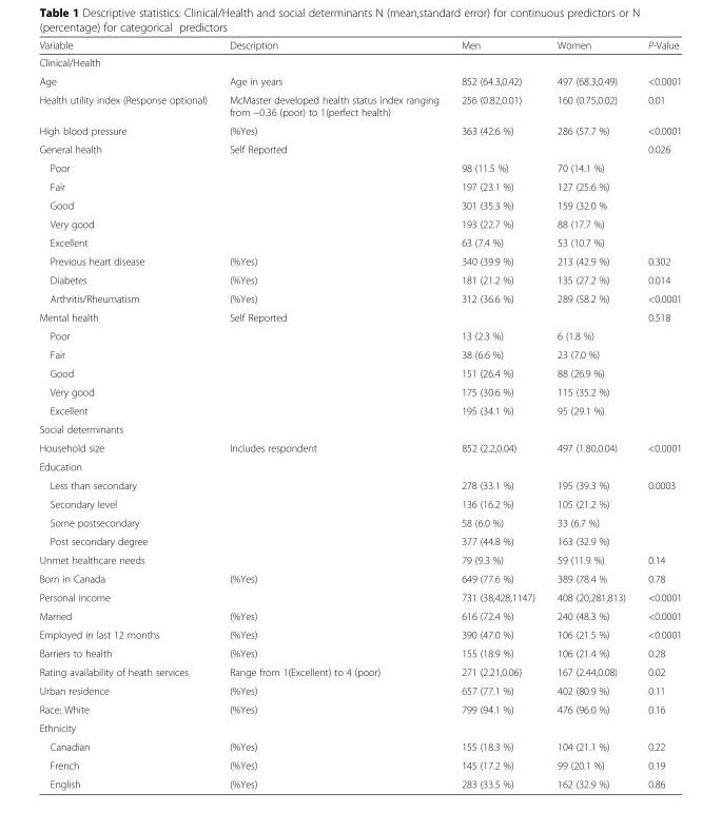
<table><thead><tr><td>Variable</td><td>Description</td><td>Men</td><td>Women</td><td>P-Value</td></tr></thead><tbody><tr><td colspan="5">Clinical/Health</td></tr><tr><td>Age</td><td>Age in years</td><td>852 (64.3,0.42)</td><td>497 (68.3,0.49)</td><td>&lt;0.0001</td></tr><tr><td>Health utility index (Response optional)</td><td>McMaster developed health status index ranging from −0.36 (poor) to 1(perfect health)</td><td>256 (0.82,0.01)</td><td>160 (0.75,0.02)</td><td>0.01</td></tr><tr><td>High blood pressure</td><td>(%Yes)</td><td>363 (42.6 %)</td><td>286 (57.7 %)</td><td>&lt;0.0001</td></tr><tr><td>General health</td><td>Self Reported</td><td></td><td></td><td>0.026</td></tr><tr><td>Poor</td><td></td><td>98 (11.5 %)</td><td>70 (14.1 %)</td><td></td></tr><tr><td>Fair</td><td></td><td>197 (23.1 %)</td><td>127 (25.6 %)</td><td></td></tr><tr><td>Good</td><td></td><td>301 (35.3 %)</td><td>159 (32.0 %</td><td></td></tr><tr><td>Very good</td><td></td><td>193 (22.7 %)</td><td>88 (17.7 %)</td><td></td></tr><tr><td>Excellent</td><td></td><td>63 (7.4 %)</td><td>53 (10.7 %)</td><td></td></tr><tr><td>Previous heart disease</td><td>(%Yes)</td><td>340 (39.9 %)</td><td>213 (42.9 %)</td><td>0.302</td></tr><tr><td>Diabetes</td><td>(%Yes)</td><td>181 (21.2 %)</td><td>135 (27.2 %)</td><td>0.014</td></tr><tr><td>Arthritis/Rheumatism</td><td>(%Yes)</td><td>312 (36.6 %)</td><td>289 (58.2 %)</td><td>&lt;0.0001</td></tr><tr><td>Mental health</td><td>Self Reported</td><td></td><td></td><td>0.518</td></tr><tr><td>Poor</td><td></td><td>13 (2.3 %)</td><td>6 (1.8 %)</td><td></td></tr><tr><td>Fair</td><td></td><td>38 (6.6 %)</td><td>23 (7.0 %)</td><td></td></tr><tr><td>Good</td><td></td><td>151 (26.4 %)</td><td>88 (26.9 %)</td><td></td></tr><tr><td>Very good</td><td></td><td>175 (30.6 %)</td><td>115 (35.2 %)</td><td></td></tr><tr><td>Excellent</td><td></td><td>195 (34.1 %)</td><td>95 (29.1 %)</td><td></td></tr><tr><td colspan="5">Social determinants</td></tr><tr><td>Household size</td><td>Includes respondent</td><td>852 (2.2,0.04)</td><td>497 (1.80,0.04)</td><td>&lt;0.0001</td></tr><tr><td colspan="5">Education</td></tr><tr><td>Less than secondary</td><td></td><td>278 (33.1 %)</td><td>195 (39.3 %)</td><td>0.0003</td></tr><tr><td>Secondary level</td><td></td><td>136 (16.2 %)</td><td>105 (21.2 %)</td><td></td></tr><tr><td>Some postsecondary</td><td></td><td>58 (6.0 %)</td><td>33 (6.7 %)</td><td></td></tr><tr><td>Post secondary degree</td><td></td><td>377 (44.8 %)</td><td>163 (32.9 %)</td><td></td></tr><tr><td>Unmet healthcare needs</td><td></td><td>79 (9.3 %)</td><td>59 (11.9 %)</td><td>0.14</td></tr><tr><td>Born in Canada</td><td>(%Yes)</td><td>649 (77.6 %)</td><td>389 (78.4 %</td><td>0.78</td></tr><tr><td>Personal income</td><td></td><td>731 (38,428,1147)</td><td>408 (20,281,813)</td><td>&lt;0.0001</td></tr><tr><td>Married</td><td>(%Yes)</td><td>616 (72.4 %)</td><td>240 (48.3 %)</td><td>&lt;0.0001</td></tr><tr><td>Employed in last 12 months</td><td>(%Yes)</td><td>390 (47.0 %)</td><td>106 (21.5 %)</td><td>&lt;0.0001</td></tr><tr><td>Barriers to health</td><td>(%Yes)</td><td>155 (18.9 %)</td><td>106 (21.4 %)</td><td>0.28</td></tr><tr><td>Rating availability of heath services</td><td>Range from 1(Excellent) to 4 (poor)</td><td>271 (2.21,0.06)</td><td>167 (2.44,0.08)</td><td>0.02</td></tr><tr><td>Urban residence</td><td>(%Yes)</td><td>657 (77.1 %)</td><td>402 (80.9 %)</td><td>0.11</td></tr><tr><td>Race: White</td><td>(%Yes)</td><td>799 (94.1 %)</td><td>476 (96.0 %)</td><td>0.16</td></tr><tr><td colspan="5">Ethnicity</td></tr><tr><td>Canadian</td><td>(%Yes)</td><td>155 (18.3 %)</td><td>104 (21.1 %)</td><td>0.22</td></tr><tr><td>French</td><td>(%Yes)</td><td>145 (17.2 %)</td><td>99 (20.1 %)</td><td>0.19</td></tr><tr><td>English</td><td>(%Yes)</td><td>283 (33.5 %)</td><td>162 (32.9 %)</td><td>0.86</td></tr></tbody></table>